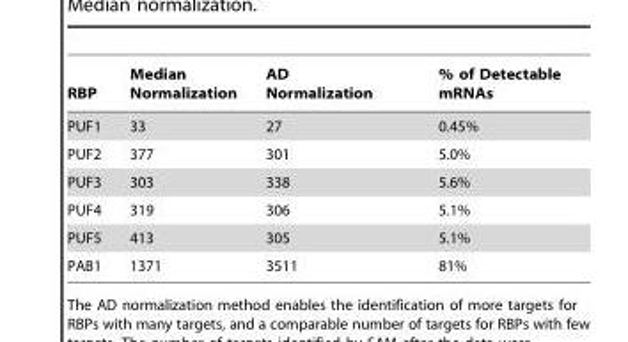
<table><thead><tr><td>RBP</td><td>Median Normalization</td><td>AD Normalization</td><td>% of Detectable mRNAs</td></tr></thead><tbody><tr><td>PUF1</td><td>33</td><td>27</td><td>0.45%</td></tr><tr><td>PUF2</td><td>377</td><td>301</td><td>5.0%</td></tr><tr><td>PUF3</td><td>303</td><td>338</td><td>5.6%</td></tr><tr><td>PUF4</td><td>319</td><td>306</td><td>5.1%</td></tr><tr><td>PUF5</td><td>413</td><td>305</td><td>5.1%</td></tr><tr><td>PAB1</td><td>1371</td><td>3511</td><td>81%</td></tr></tbody></table>